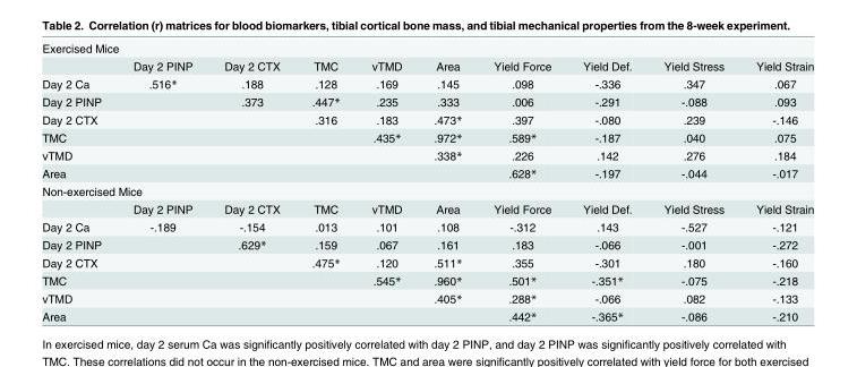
<table><tbody><tr><td colspan="10">Exercised Mice</td></tr><tr><td></td><td>Day 2 PINP</td><td>Day 2 CTX</td><td>TMC</td><td>vTMD</td><td>Area</td><td>Yield Force</td><td>Yield Def.</td><td>Yield Stress</td><td>Yield Strain</td></tr><tr><td>Day 2 Ca</td><td>.516*</td><td>.188</td><td>.128</td><td>.169</td><td>.145</td><td>.098</td><td>-.336</td><td>.347</td><td>.067</td></tr><tr><td>Day 2 PINP</td><td></td><td>.373</td><td>.447*</td><td>.235</td><td>.333</td><td>.006</td><td>-.291</td><td>-.088</td><td>.093</td></tr><tr><td>Day 2 CTX</td><td></td><td></td><td>.316</td><td>.183</td><td>.473*</td><td>.397</td><td>-.080</td><td>.239</td><td>-.146</td></tr><tr><td>TMC</td><td></td><td></td><td></td><td>.435*</td><td>.972*</td><td>.589*</td><td>-.187</td><td>.040</td><td>.075</td></tr><tr><td>vTMD</td><td></td><td></td><td></td><td></td><td>.338*</td><td>.226</td><td>.142</td><td>.276</td><td>.184</td></tr><tr><td>Area</td><td></td><td></td><td></td><td></td><td></td><td>.628*</td><td>-.197</td><td>-.044</td><td>-.017</td></tr><tr><td colspan="10">Non-exercised Mice</td></tr><tr><td></td><td>Day 2 PINP</td><td>Day 2 CTX</td><td>TMC</td><td>vTMD</td><td>Area</td><td>Yield Force</td><td>Yield Def.</td><td>Yield Stress</td><td>Yield Strain</td></tr><tr><td>Day 2 Ca</td><td>-.189</td><td>-.154</td><td>.013</td><td>.101</td><td>.108</td><td>-.312</td><td>.143</td><td>-.527</td><td>-.121</td></tr><tr><td>Day 2 PINP</td><td></td><td>.629*</td><td>.159</td><td>.067</td><td>.161</td><td>.183</td><td>-.066</td><td>-.001</td><td>-.272</td></tr><tr><td>Day 2 CTX</td><td></td><td></td><td>.475*</td><td>.120</td><td>.511*</td><td>.355</td><td>-.301</td><td>.180</td><td>-.160</td></tr><tr><td>TMC</td><td></td><td></td><td></td><td>.545*</td><td>.960*</td><td>.501*</td><td>-.351*</td><td>-.075</td><td>-.218</td></tr><tr><td>vTMD</td><td></td><td></td><td></td><td></td><td>.405*</td><td>.288*</td><td>-.066</td><td>.082</td><td>-.133</td></tr><tr><td>Area</td><td></td><td></td><td></td><td></td><td></td><td>.442*</td><td>-.365*</td><td>-.086</td><td>-.210</td></tr></tbody></table>